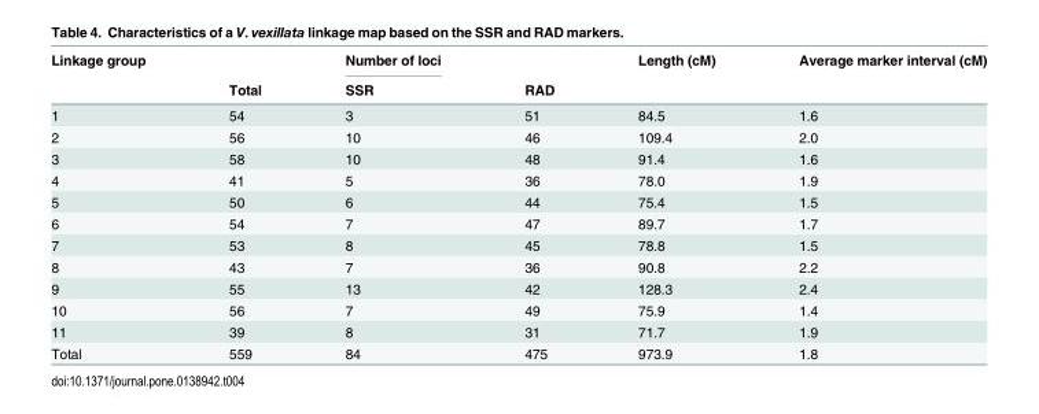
<table><thead><tr><td rowspan="2">Linkage group</td><td rowspan="2">Total</td><td rowspan="2">Number of loci SSR</td><td rowspan="2">RAD</td><td rowspan="2">Length (cM)</td><td rowspan="2">Average marker interval (cM)</td></tr><tr></tr></thead><tbody><tr><td>1</td><td>54</td><td>3</td><td>51</td><td>84.5</td><td>1.6</td></tr><tr><td>2</td><td>56</td><td>10</td><td>46</td><td>109.4</td><td>2.0</td></tr><tr><td>3</td><td>58</td><td>10</td><td>48</td><td>91.4</td><td>1.6</td></tr><tr><td>4</td><td>41</td><td>5</td><td>36</td><td>78.0</td><td>1.9</td></tr><tr><td>5</td><td>50</td><td>6</td><td>44</td><td>75.4</td><td>1.5</td></tr><tr><td>6</td><td>54</td><td>7</td><td>47</td><td>89.7</td><td>1.7</td></tr><tr><td>7</td><td>53</td><td>8</td><td>45</td><td>78.8</td><td>1.5</td></tr><tr><td>8</td><td>43</td><td>7</td><td>36</td><td>90.8</td><td>2.2</td></tr><tr><td>9</td><td>55</td><td>13</td><td>42</td><td>128.3</td><td>2.4</td></tr><tr><td>10</td><td>56</td><td>7</td><td>49</td><td>75.9</td><td>1.4</td></tr><tr><td>11</td><td>39</td><td>8</td><td>31</td><td>71.7</td><td>1.9</td></tr><tr><td>Total</td><td>559</td><td>84</td><td>475</td><td>973.9</td><td>1.8</td></tr></tbody></table>